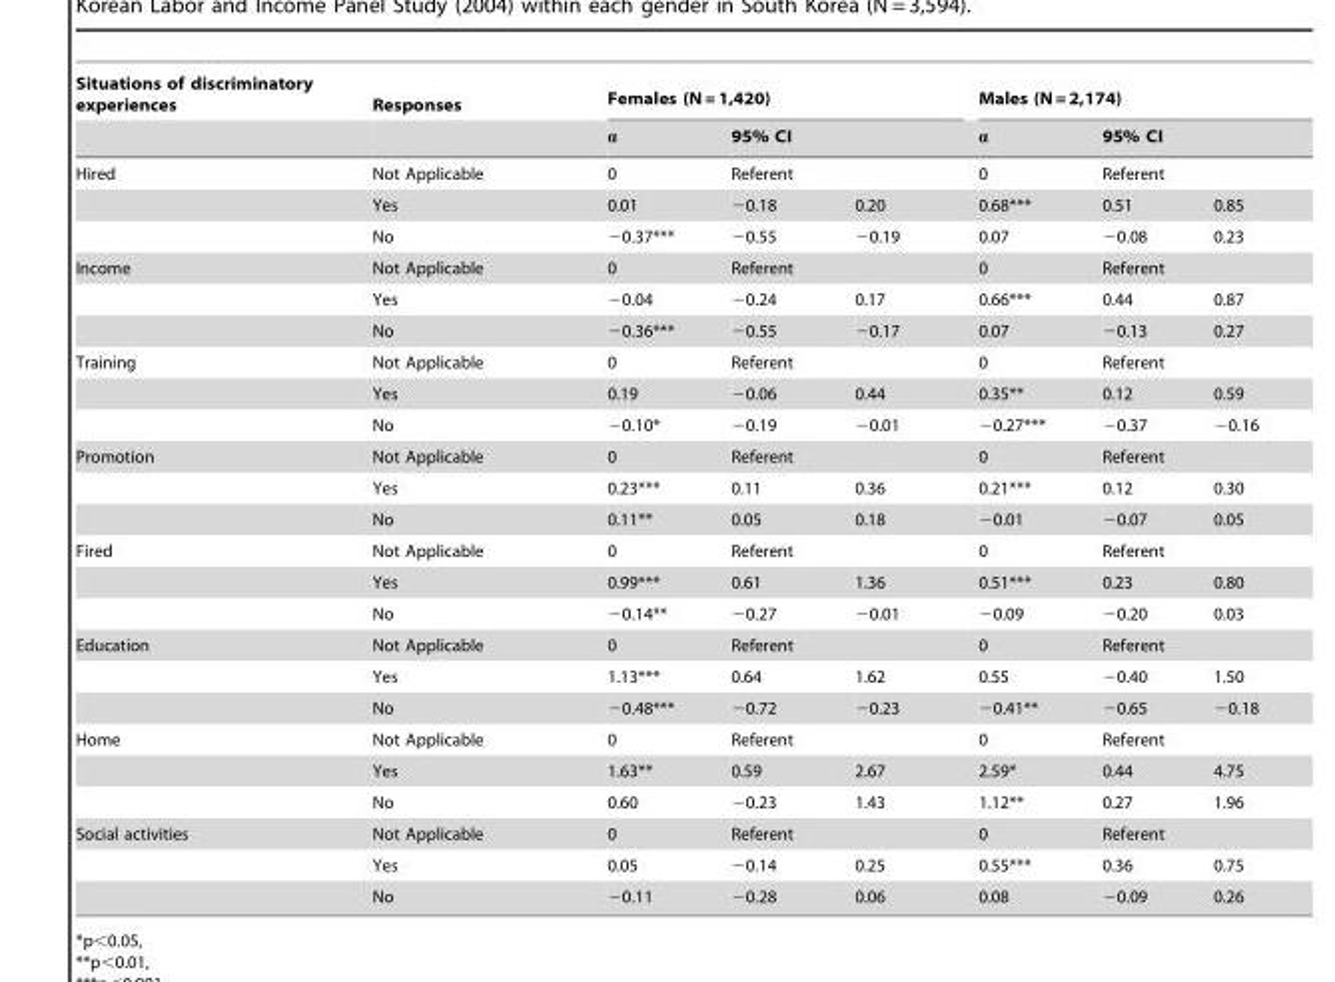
<table><thead><tr><td rowspan="4">Situations of discriminatory experiences Hired</td><td rowspan="4">Responses Not Applicable Yes</td><td colspan="3">Females (N = 1,420)</td><td colspan="3">Males (N = 2,174)</td></tr><tr><td rowspan="3">α 0 0.01</td><td colspan="2">95% CI</td><td rowspan="3">α 0 0.68***</td><td rowspan="2" colspan="2">95% CI Referent</td></tr><tr><td rowspan="2">Referent −0.18</td><td rowspan="2">0.20</td></tr><tr><td>0.51</td><td>0.85</td></tr></thead><tbody><tr><td></td><td>No</td><td>−0.37***</td><td>−0.55</td><td>−0.19</td><td>0.07</td><td>−0.08</td><td>0.23</td></tr><tr><td rowspan="3">Income</td><td>Not Applicable</td><td>0</td><td colspan="2">Referent</td><td>0</td><td colspan="2">Referent</td></tr><tr><td>Yes</td><td>−0.04</td><td>−0.24</td><td>0.17</td><td>0.66***</td><td>0.44</td><td>0.87</td></tr><tr><td>No</td><td>−0.36***</td><td>−0.55</td><td>−0.17</td><td>0.07</td><td>−0.13</td><td>0.27</td></tr><tr><td rowspan="3">Training</td><td>Not Applicable</td><td>0</td><td colspan="2">Referent</td><td>0</td><td colspan="2">Referent</td></tr><tr><td>Yes</td><td>0.19</td><td>−0.06</td><td>0.44</td><td>0.35**</td><td>0.12</td><td>0.59</td></tr><tr><td>No</td><td>−0.10*</td><td>−0.19</td><td>−0.01</td><td>−0.27***</td><td>−0.37</td><td>−0.16</td></tr><tr><td rowspan="3">Promotion</td><td>Not Applicable</td><td>0</td><td colspan="2">Referent</td><td>0</td><td colspan="2">Referent</td></tr><tr><td>Yes</td><td>0.23***</td><td>0.11</td><td>0.36</td><td>0.21***</td><td>0.12</td><td>0.30</td></tr><tr><td>No</td><td>0.11**</td><td>0.05</td><td>0.18</td><td>−0.01</td><td>−0.07</td><td>0.05</td></tr><tr><td rowspan="3">Fired</td><td>Not Applicable</td><td>0</td><td colspan="2">Referent</td><td>0</td><td colspan="2">Referent</td></tr><tr><td>Yes</td><td>0.99***</td><td>0.61</td><td>1.36</td><td>0.51***</td><td>0.23</td><td>0.80</td></tr><tr><td>No</td><td>−0.14**</td><td>−0.27</td><td>−0.01</td><td>−0.09</td><td>−0.20</td><td>0.03</td></tr><tr><td rowspan="3">Education</td><td>Not Applicable</td><td>0</td><td colspan="2">Referent</td><td>0</td><td colspan="2">Referent</td></tr><tr><td>Yes</td><td>1.13***</td><td>0.64</td><td>1.62</td><td>0.55</td><td>−0.40</td><td>1.50</td></tr><tr><td>No</td><td>−0.48***</td><td>−0.72</td><td>−0.23</td><td>−0.41**</td><td>−0.65</td><td>−0.18</td></tr><tr><td rowspan="3">Home</td><td>Not Applicable</td><td>0</td><td colspan="2">Referent</td><td>0</td><td colspan="2">Referent</td></tr><tr><td>Yes</td><td>1.63**</td><td>0.59</td><td>2.67</td><td>2.59*</td><td>0.44</td><td>4.75</td></tr><tr><td>No</td><td>0.60</td><td>−0.23</td><td>1.43</td><td>1.12**</td><td>0.27</td><td>1.96</td></tr><tr><td rowspan="3">Social activities</td><td>Not Applicable</td><td>0</td><td colspan="2">Referent</td><td>0</td><td colspan="2">Referent</td></tr><tr><td>Yes</td><td>0.05</td><td>−0.14</td><td>0.25</td><td>0.55***</td><td>0.36</td><td>0.75</td></tr><tr><td>No</td><td>−0.11</td><td>−0.28</td><td>0.06</td><td>0.08</td><td>−0.09</td><td>0.26</td></tr></tbody></table>